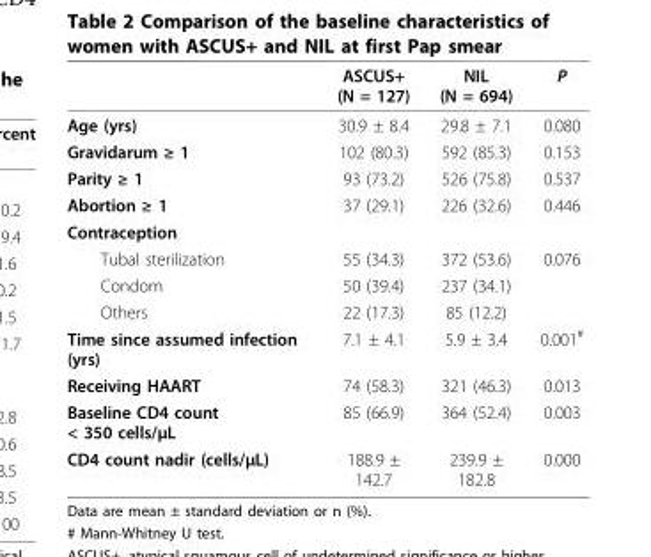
<table><thead><tr><td></td><td>ASCUS+ (N = 127)</td><td>NIL (N = 694)</td><td>P</td></tr></thead><tbody><tr><td>Age (yrs)</td><td>30.9 ± 8.4</td><td>29.8 ± 7.1</td><td>0.080</td></tr><tr><td>Gravidarum ≥ 1</td><td>102 (80.3)</td><td>592 (85.3)</td><td>0.153</td></tr><tr><td>Parity ≥ 1</td><td>93 (73.2)</td><td>526 (75.8)</td><td>0.537</td></tr><tr><td>Abortion ≥ 1</td><td>37 (29.1)</td><td>226 (32.6)</td><td>0.446</td></tr><tr><td colspan="4">Contraception</td></tr><tr><td>Tubal sterilization</td><td>55 (34.3)</td><td>372 (53.6)</td><td>0.076</td></tr><tr><td>Condom</td><td>50 (39.4)</td><td>237 (34.1)</td><td></td></tr><tr><td>Others</td><td>22 (17.3)</td><td>85 (12.2)</td><td></td></tr><tr><td>Time since assumed infection (yrs)</td><td>7.1 ± 4.1</td><td>5.9 ± 3.4</td><td>0.001<sup>#</sup></td></tr><tr><td>Receiving HAART</td><td>74 (58.3)</td><td>321 (46.3)</td><td>0.013</td></tr><tr><td>Baseline CD4 count &lt; 350 cells/μL</td><td>85 (66.9)</td><td>364 (52.4)</td><td>0.003</td></tr><tr><td>CD4 count nadir (cells/μL)</td><td>188.9 ± 142.7</td><td>239.9 ± 182.8</td><td>0.000</td></tr></tbody></table>